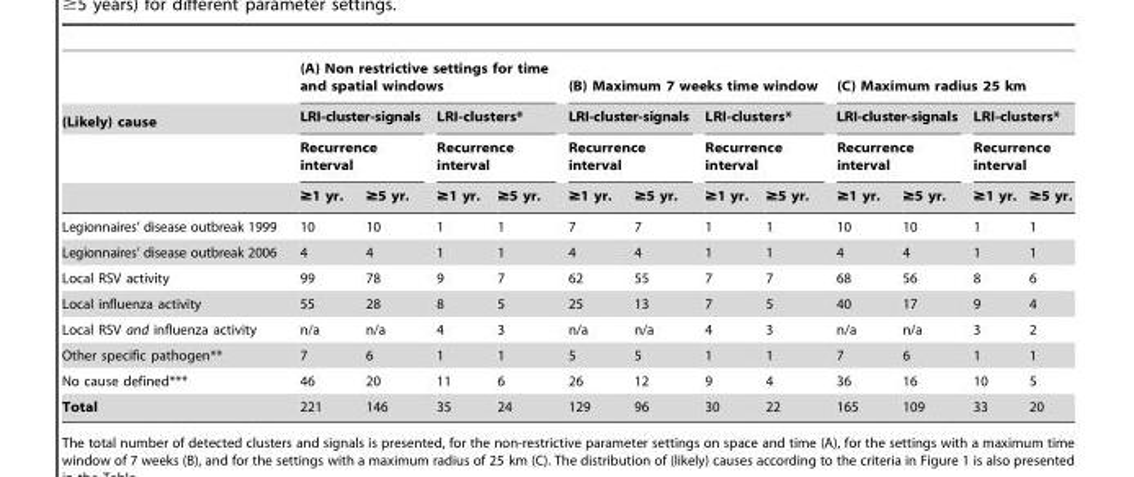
<table><thead><tr><td rowspan="4">(Likely) cause</td><td colspan="4">(A) Non restrictive settings for time and spatial windows</td><td colspan="4">(B) Maximum 7 weeks time window</td><td colspan="4">(C) Maximum radius 25 km</td></tr><tr><td rowspan="2" colspan="2">LRI-cluster-signals Recurrence interval</td><td rowspan="2" colspan="2">LRI-clusters* Recurrence interval</td><td rowspan="2" colspan="2">LRI-cluster-signals Recurrence interval</td><td rowspan="2" colspan="2">LRI-clusters* Recurrence interval</td><td rowspan="2" colspan="2">LRI-cluster-signals Recurrence interval</td><td rowspan="2" colspan="2">LRI-clusters* Recurrence interval</td></tr><tr></tr><tr><td>≥1 yr.</td><td>≥5 yr.</td><td>≥1 yr.</td><td>≥5 yr.</td><td>≥1 yr.</td><td>≥5 yr.</td><td>≥1 yr.</td><td>≥5 yr.</td><td>≥1 yr.</td><td>≥5 yr.</td><td>≥1 yr.</td><td>≥5 yr.</td></tr></thead><tbody><tr><td>Legionnaires’ disease outbreak 1999</td><td>10</td><td>10</td><td>1</td><td>1</td><td>7</td><td>7</td><td>1</td><td>1</td><td>10</td><td>10</td><td>1</td><td>1</td></tr><tr><td>Legionnaires’ disease outbreak 2006</td><td>4</td><td>4</td><td>1</td><td>1</td><td>4</td><td>4</td><td>1</td><td>1</td><td>4</td><td>4</td><td>1</td><td>1</td></tr><tr><td>Local RSV activity</td><td>99</td><td>78</td><td>9</td><td>7</td><td>62</td><td>55</td><td>7</td><td>7</td><td>68</td><td>56</td><td>8</td><td>6</td></tr><tr><td>Local influenza activity</td><td>55</td><td>28</td><td>8</td><td>5</td><td>25</td><td>13</td><td>7</td><td>5</td><td>40</td><td>17</td><td>9</td><td>4</td></tr><tr><td>Local RSV and influenza activity</td><td>n/a</td><td>n/a</td><td>4</td><td>3</td><td>n/a</td><td>n/a</td><td>4</td><td>3</td><td>n/a</td><td>n/a</td><td>3</td><td>2</td></tr><tr><td>Other specific pathogen**</td><td>7</td><td>6</td><td>1</td><td>1</td><td>5</td><td>5</td><td>1</td><td>1</td><td>7</td><td>6</td><td>1</td><td>1</td></tr><tr><td>No cause defined***</td><td>46</td><td>20</td><td>11</td><td>6</td><td>26</td><td>12</td><td>9</td><td>4</td><td>36</td><td>16</td><td>10</td><td>5</td></tr><tr><td>Total</td><td>221</td><td>146</td><td>35</td><td>24</td><td>129</td><td>96</td><td>30</td><td>22</td><td>165</td><td>109</td><td>33</td><td>20</td></tr></tbody></table>